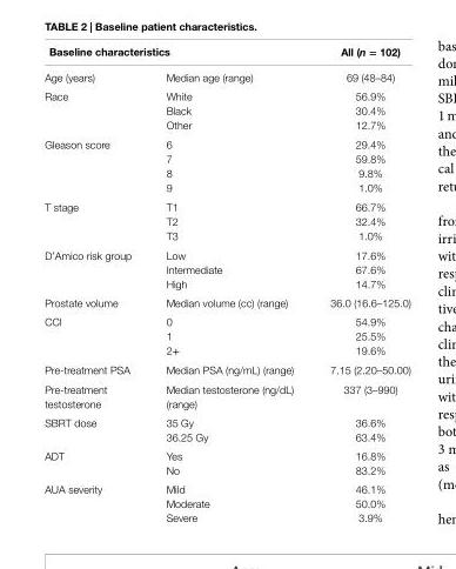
<table><thead><tr><td colspan="2">Baseline characteristics</td><td rowspan="2">all (n = 102) 69 (48–84)</td></tr><tr><td>Age (years)</td><td>Median age (range)</td></tr></thead><tbody><tr><td rowspan="3">Race</td><td>White</td><td>56.9%</td></tr><tr><td>Black</td><td>30.4%</td></tr><tr><td>Other</td><td>12.7%</td></tr><tr><td rowspan="4">Gleason score</td><td>6</td><td>29.4%</td></tr><tr><td>7</td><td>59.8%</td></tr><tr><td>8</td><td>9.8%</td></tr><tr><td>9</td><td>1.0%</td></tr><tr><td rowspan="3">T stage</td><td>T1</td><td>66.7%</td></tr><tr><td>T2</td><td>32.4%</td></tr><tr><td>T3</td><td>1.0%</td></tr><tr><td rowspan="3">D’Amico risk group</td><td>Low</td><td>17.6%</td></tr><tr><td>Intermediate</td><td>67.6%</td></tr><tr><td>High</td><td>14.7%</td></tr><tr><td>Prostate volume</td><td>Median volume (cc) (range)</td><td>36.0 (16.6–125.0)</td></tr><tr><td rowspan="3">CCI</td><td>0</td><td>54.9%</td></tr><tr><td>1</td><td>25.5%</td></tr><tr><td>2+</td><td>19.6%</td></tr><tr><td>Pre-treatment PSA</td><td>Median PSA (ng/mL) (range)</td><td>7.15 (2.20–50.00)</td></tr><tr><td>Pre-treatment testosterone</td><td>Median testosterone (ng/dL) (range)</td><td>337 (3–990)</td></tr><tr><td rowspan="2">SBRT dose</td><td>35 Gy</td><td>36.6%</td></tr><tr><td>36.25 Gy</td><td>63.4%</td></tr><tr><td rowspan="2">ADT</td><td>Yes</td><td>16.8%</td></tr><tr><td>No</td><td>83.2%</td></tr><tr><td rowspan="3">AUA severity</td><td>Mild</td><td>46.1%</td></tr><tr><td>Moderate</td><td>50.0%</td></tr><tr><td>Severe</td><td>3.9%</td></tr></tbody></table>